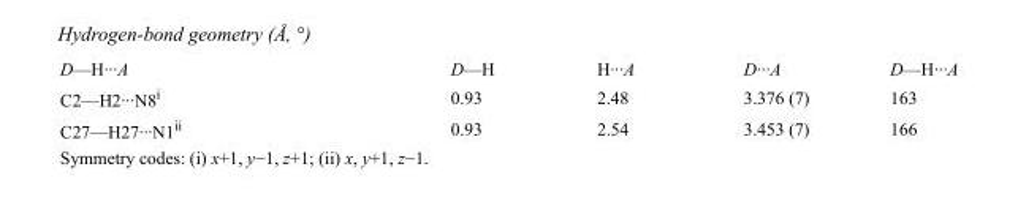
<table><tbody><tr><td>D—H···A</td><td>D—H</td><td>H···A</td><td>D···A</td><td>D—H···A</td></tr><tr><td>C2—H2···N8<sup>i</sup></td><td>0.93</td><td>2.48</td><td>3.376 (7)</td><td>163</td></tr><tr><td>C27—H27···N1<sup>ii</sup></td><td>0.93</td><td>2.54</td><td>3.453 (7)</td><td>166</td></tr></tbody></table>